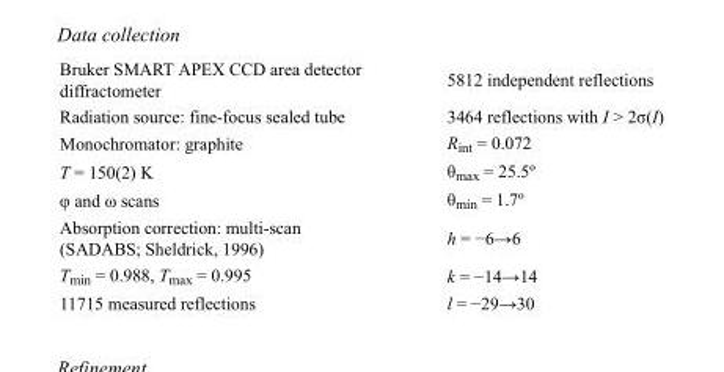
<table><tbody><tr><td>Bruker SMART APEX CCD area detector diffractometer</td><td>5812 independent reflections</td></tr><tr><td>Radiation source: fine-focus sealed tube</td><td>3464 reflections with I &gt; 2σ(I)</td></tr><tr><td>Monochromator: graphite</td><td>R<sub>int</sub> = 0.072</td></tr><tr><td>T = 150(2) K</td><td>θ<sub>max</sub> = 25.5º</td></tr><tr><td>φ and ω scans</td><td>θ<sub>min</sub> = 1.7º</td></tr><tr><td>Absorption correction: multi-scan (SADABS; Sheldrick, 1996)</td><td>h = −6→6</td></tr><tr><td>T<sub>min</sub> = 0.988, T<sub>max</sub> = 0.995</td><td>k = −14→14</td></tr><tr><td>11715 measured reflections</td><td>l = −29→30</td></tr></tbody></table>